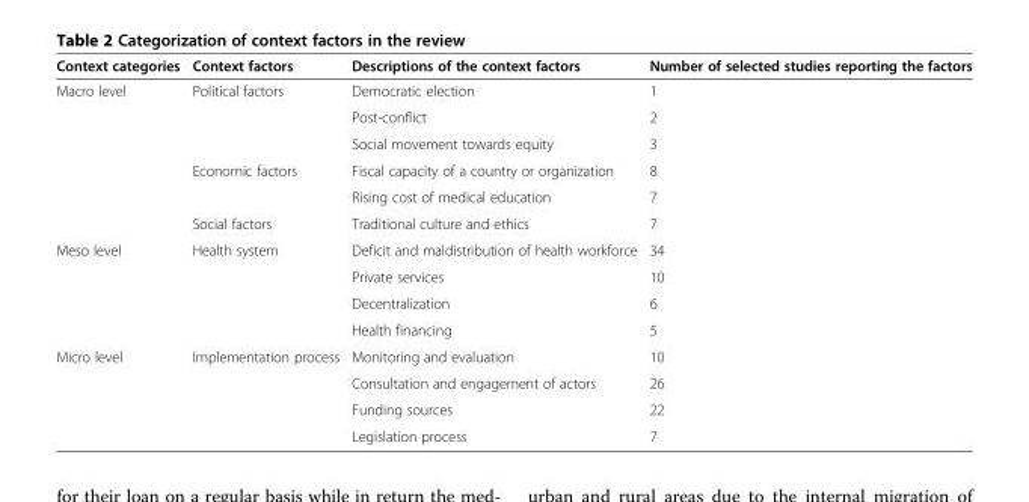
<table><thead><tr><td>Context categories</td><td>Context factors</td><td>Descriptions of the context factors</td><td>Number of selected studies reporting the factors</td></tr></thead><tbody><tr><td rowspan="6">Macro level</td><td>Political factors</td><td>Democratic election</td><td>1</td></tr><tr><td></td><td>Post-conflict</td><td>2</td></tr><tr><td></td><td>Social movement towards equity</td><td>3</td></tr><tr><td>Economic factors</td><td>Fiscal capacity of a country or organization</td><td>8</td></tr><tr><td></td><td>Rising cost of medical education</td><td>7</td></tr><tr><td>Social factors</td><td>Traditional culture and ethics</td><td>7</td></tr><tr><td rowspan="4">Meso level</td><td>Health system</td><td>Deficit and maldistribution of health workforce</td><td>34</td></tr><tr><td></td><td>Private services</td><td>10</td></tr><tr><td></td><td>Decentralization</td><td>6</td></tr><tr><td></td><td>Health financing</td><td>5</td></tr><tr><td rowspan="4">Micro level</td><td>Implementation process</td><td>Monitoring and evaluation</td><td>10</td></tr><tr><td></td><td>Consultation and engagement of actors</td><td>26</td></tr><tr><td></td><td>Funding sources</td><td>22</td></tr><tr><td></td><td>Legislation process</td><td>7</td></tr></tbody></table>